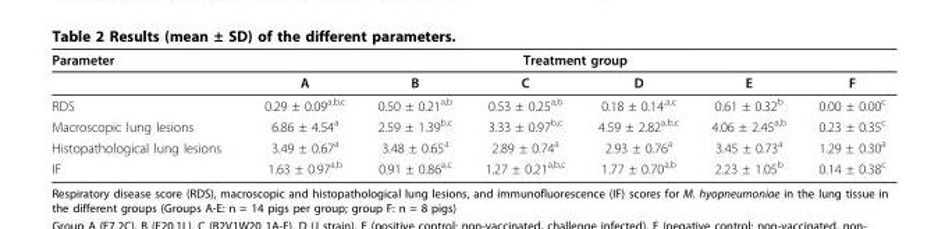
<table><thead><tr><td rowspan="2">Parameter</td><td colspan="6">Treatment group</td></tr><tr><td>A</td><td>B</td><td>C</td><td>D</td><td>E</td><td>F</td></tr></thead><tbody><tr><td>RDS</td><td>0.29 ± 0.09<sup>a,b,c</sup></td><td>0.50 ± 0.21<sup>a,b</sup></td><td>0.53 ± 0.25<sup>a,b</sup></td><td>0.18 ± 0.14<sup>,a,c</sup></td><td>0.61 ± 0.32<sup>b</sup></td><td>0.00 ± 0.00<sup>c</sup></td></tr><tr><td>Macroscopic lung lesions</td><td>6.86 ± 4.54<sup>a</sup></td><td>2.59 ± 1.39<sup>b,c</sup></td><td>3.33 ± 0.97<sup>b,c</sup></td><td>4.59 ± 2.82<sup>a,b,c</sup></td><td>4.06 ± 2.45<sup>a,b</sup></td><td>0.23 ± 0.35<sup>c</sup></td></tr><tr><td>Histopathological lung lesions</td><td>3.49 ± 0.67<sup>a</sup></td><td>3.48 ± 0.65<sup>a</sup></td><td>2.89 ± 0.74<sup>a</sup></td><td>2.93 ± 0.76<sup>a</sup></td><td>3.45 ± 0.73<sup>a</sup></td><td>1.29 ± 0.30<sup>a</sup></td></tr><tr><td>IF</td><td>1.63 ± 0.97<sup>a,b</sup></td><td>0.91 ± 0.86<sup>a,c</sup></td><td>1.27 ± 0.21<sup>a,b,c</sup></td><td>1.77 ± 0.70<sup>a,b</sup></td><td>2.23 ± 1.05<sup>b</sup></td><td>0.14 ± 0.38<sup>c</sup></td></tr></tbody></table>